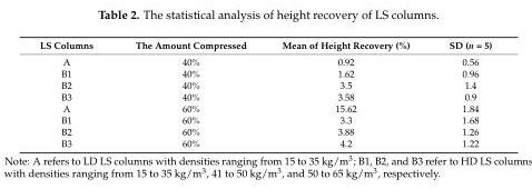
<table><thead><tr><td>LS Columns</td><td>The Amount Compressed</td><td>Mean of Height Recovery (%)</td><td>SD (n = 5)</td></tr></thead><tbody><tr><td>A</td><td>40%</td><td>0.92</td><td>0.56</td></tr><tr><td>B1</td><td>40%</td><td>1.62</td><td>0.96</td></tr><tr><td>B2</td><td>40%</td><td>3.5</td><td>1.4</td></tr><tr><td>B3</td><td>40%</td><td>3.58</td><td>0.9</td></tr><tr><td>A</td><td>60%</td><td>15.62</td><td>1.84</td></tr><tr><td>B1</td><td>60%</td><td>3.3</td><td>1.68</td></tr><tr><td>B2</td><td>60%</td><td>3.88</td><td>1.26</td></tr><tr><td>B3</td><td>60%</td><td>4.2</td><td>1.22</td></tr></tbody></table>